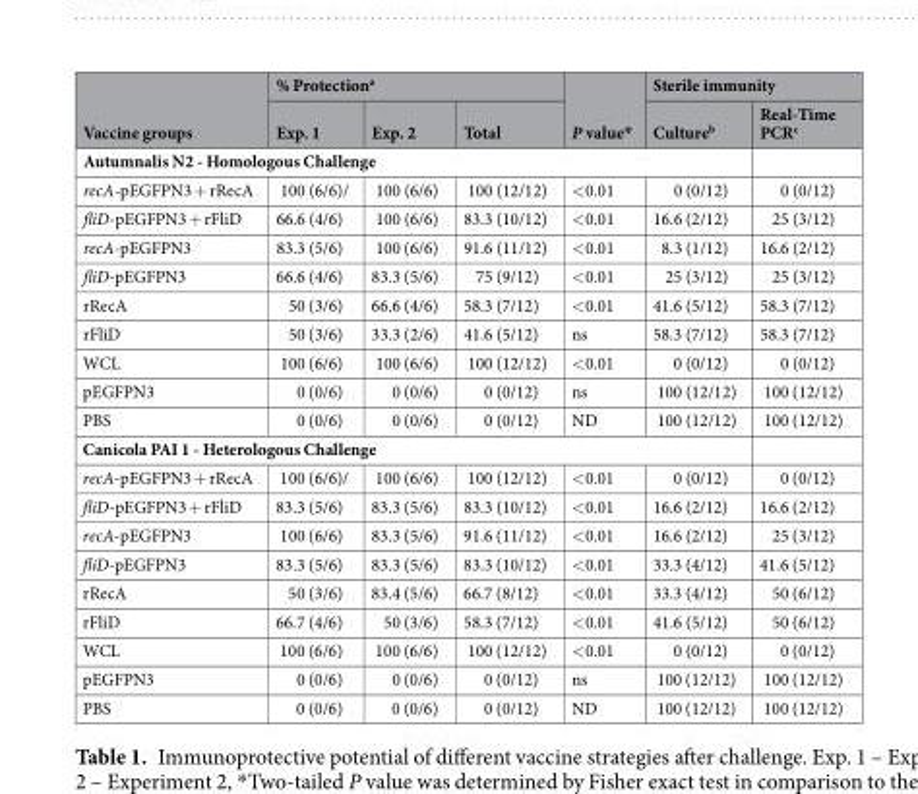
<table><thead><tr><td rowspan="2">Vaccine groups</td><td colspan="3">% Protection<sup>a</sup></td><td rowspan="2">P value*</td><td colspan="2">Sterile immunity</td></tr><tr><td>Exp. 1</td><td>Exp. 2</td><td>Total</td><td>Culture<sup>b</sup></td><td>Real-Time PCR<sup>c</sup></td></tr></thead><tbody><tr><td colspan="7">Autumnalis N2 - Homologous Challenge</td></tr><tr><td>recA-pEGFPN3 + rRecA</td><td>100 (6/6)/</td><td>100 (6/6)</td><td>100 (12/12)</td><td>&lt;0.01</td><td>0 (0/12)</td><td>0 (0/12)</td></tr><tr><td>fliD-pEGFPN3 + rFliD</td><td>66.6 (4/6)</td><td>100 (6/6)</td><td>83.3 (10/12)</td><td>&lt;0.01</td><td>16.6 (2/12)</td><td>25 (3/12)</td></tr><tr><td>recA-pEGFPN3</td><td>83.3 (5/6)</td><td>100 (6/6)</td><td>91.6 (11/12)</td><td>&lt;0.01</td><td>8.3 (1/12)</td><td>16.6 (2/12)</td></tr><tr><td>fliD-pEGFPN3</td><td>66.6 (4/6)</td><td>83.3 (5/6)</td><td>75 (9/12)</td><td>&lt;0.01</td><td>25 (3/12)</td><td>25 (3/12)</td></tr><tr><td>rRecA</td><td>50 (3/6)</td><td>66.6 (4/6)</td><td>58.3 (7/12)</td><td>&lt;0.01</td><td>41.6 (5/12)</td><td>58.3 (7/12)</td></tr><tr><td>rFliD</td><td>50 (3/6)</td><td>33.3 (2/6)</td><td>41.6 (5/12)</td><td>ns</td><td>58.3 (7/12)</td><td>58.3 (7/12)</td></tr><tr><td>WCL</td><td>100 (6/6)</td><td>100 (6/6)</td><td>100 (12/12)</td><td>&lt;0.01</td><td>0 (0/12)</td><td>0 (0/12)</td></tr><tr><td>pEGFPN3</td><td>0 (0/6)</td><td>0 (0/6)</td><td>0 (0/12)</td><td>ns</td><td>100 (12/12)</td><td>100 (12/12)</td></tr><tr><td>PBS</td><td>0 (0/6)</td><td>0 (0/6)</td><td>0 (0/12)</td><td>ND</td><td>100 (12/12)</td><td>100 (12/12)</td></tr><tr><td colspan="7">Canicola PAI 1 - Heterologous Challenge</td></tr><tr><td>recA-pEGFPN3 + rRecA</td><td>100 (6/6)/</td><td>100 (6/6)</td><td>100 (12/12)</td><td>&lt;0.01</td><td>0 (0/12)</td><td>0 (0/12)</td></tr><tr><td>fliD-pEGFPN3 + rFliD</td><td>83.3 (5/6)</td><td>83.3 (5/6)</td><td>83.3 (10/12)</td><td>&lt;0.01</td><td>16.6 (2/12)</td><td>16.6 (2/12)</td></tr><tr><td>recA-pEGFPN3</td><td>100 (6/6)</td><td>83.3 (5/6)</td><td>91.6 (11/12)</td><td>&lt;0.01</td><td>16.6 (2/12)</td><td>25 (3/12)</td></tr><tr><td>fliD-pEGFPN3</td><td>83.3 (5/6)</td><td>83.3 (5/6)</td><td>83.3 (10/12)</td><td>&lt;0.01</td><td>33.3 (4/12)</td><td>41.6 (5/12)</td></tr><tr><td>rRecA</td><td>50 (3/6)</td><td>83.4 (5/6)</td><td>66.7 (8/12)</td><td>&lt;0.01</td><td>33.3 (4/12)</td><td>50 (6/12)</td></tr><tr><td>rFliD</td><td>66.7 (4/6)</td><td>50 (3/6)</td><td>58.3 (7/12)</td><td>&lt;0.01</td><td>41.6 (5/12)</td><td>50 (6/12)</td></tr><tr><td>WCL</td><td>100 (6/6)</td><td>100 (6/6)</td><td>100 (12/12)</td><td>&lt;0.01</td><td>0 (0/12)</td><td>0 (0/12)</td></tr><tr><td>pEGFPN3</td><td>0 (0/6)</td><td>0 (0/6)</td><td>0 (0/12)</td><td>ns</td><td>100 (12/12)</td><td>100 (12/12)</td></tr><tr><td>PBS</td><td>0 (0/6)</td><td>0 (0/6)</td><td>0 (0/12)</td><td>ND</td><td>100 (12/12)</td><td>100 (12/12)</td></tr></tbody></table>